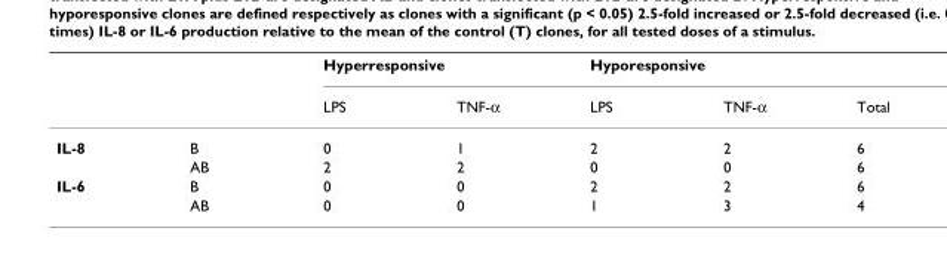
<table><thead><tr><td rowspan="2"></td><td rowspan="2"></td><td colspan="2">Hyperresponsive</td><td colspan="2">Hyporesponsive</td><td rowspan="2">Total</td></tr><tr><td>LPS</td><td>TNF-α</td><td>LPS</td><td>TNF-α</td></tr></thead><tbody><tr><td rowspan="2">IL-8</td><td>B</td><td>0</td><td>1</td><td>2</td><td>2</td><td>6</td></tr><tr><td>AB</td><td>2</td><td>2</td><td>0</td><td>0</td><td>6</td></tr><tr><td rowspan="2">IL-6</td><td>B</td><td>0</td><td>0</td><td>2</td><td>2</td><td>6</td></tr><tr><td>AB</td><td>0</td><td>0</td><td>1</td><td>3</td><td>4</td></tr></tbody></table>